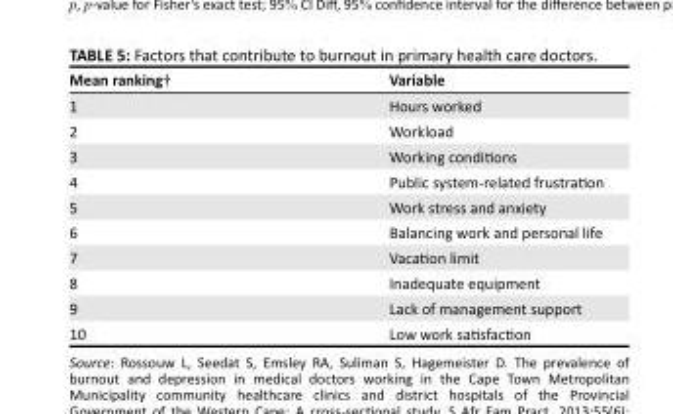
<table><thead><tr><td>Mean ranking†</td><td>Variable</td></tr></thead><tbody><tr><td>1</td><td>Hours worked</td></tr><tr><td>2</td><td>Workload</td></tr><tr><td>3</td><td>Working conditions</td></tr><tr><td>4</td><td>Public system-related frustration</td></tr><tr><td>5</td><td>Work stress and anxiety</td></tr><tr><td>6</td><td>Balancing work and personal life</td></tr><tr><td>7</td><td>Vacation limit</td></tr><tr><td>8</td><td>Inadequate equipment</td></tr><tr><td>9</td><td>Lack of management support</td></tr><tr><td>10</td><td>Low work satisfaction</td></tr></tbody></table>